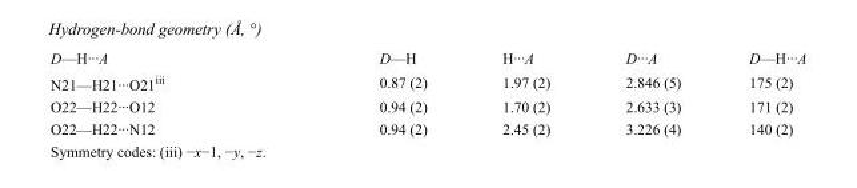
<table><tbody><tr><td>D—H···A</td><td>D—H</td><td>H···A</td><td>D···A</td><td>D—H···A</td></tr><tr><td>N21—H21···O21<sup>iii</sup></td><td>0.87 (2)</td><td>1.97 (2)</td><td>2.846 (5)</td><td>175 (2)</td></tr><tr><td>O22—H22···O12</td><td>0.94 (2)</td><td>1.70 (2)</td><td>2.633 (3)</td><td>171 (2)</td></tr><tr><td>O22—H22···N12</td><td>0.94 (2)</td><td>2.45 (2)</td><td>3.226 (4)</td><td>140 (2)</td></tr></tbody></table>